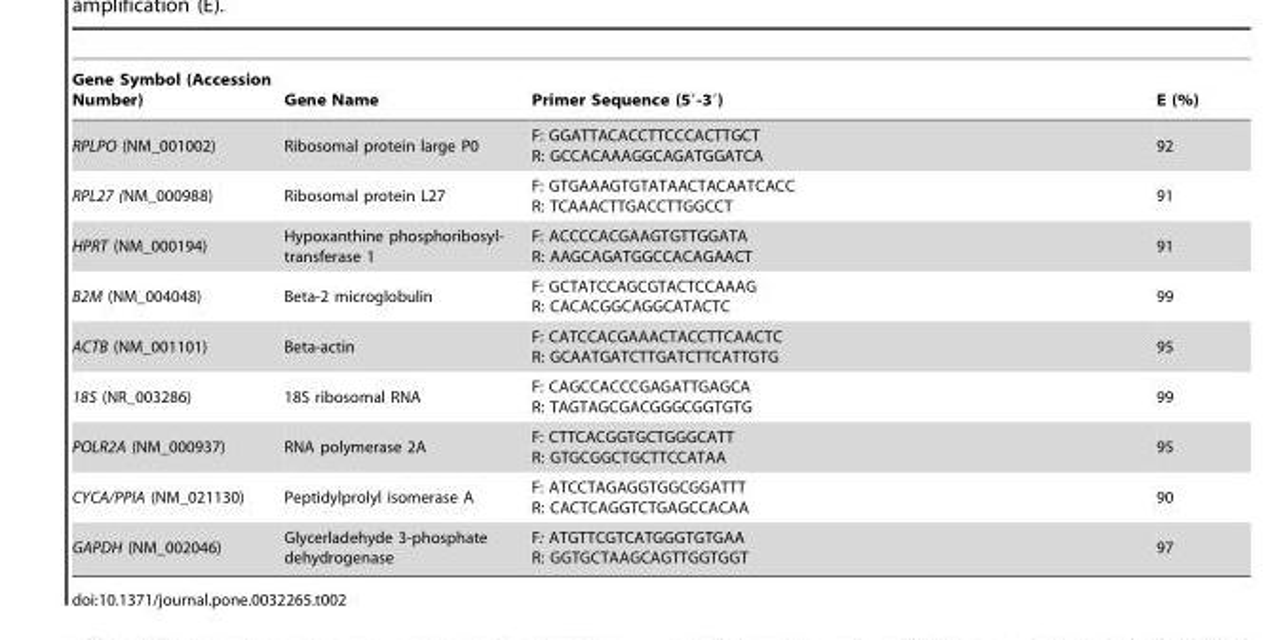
<table><thead><tr><td>Gene Symbol (Accession Number)</td><td>Gene Name</td><td>Primer Sequence (5′-3′)</td><td>E (%)</td></tr></thead><tbody><tr><td>RPLPO (NM_001002)</td><td>Ribosomal protein large P0</td><td>F: GGATTACACCTTCCCACTTGCT R: GCCACAAAGGCAGATGGATCA</td><td>92</td></tr><tr><td>RPL27 (NM_000988)</td><td>Ribosomal protein L27</td><td>F: GTGAAAGTGTATAACTACAATCACC R: TCAAACTTGACCTTGGCCT</td><td>91</td></tr><tr><td>HPRT (NM_000194)</td><td>Hypoxanthine phosphoribosyl- transferase 1</td><td>F: ACCCCACGAAGTGTTGGATA R: AAGCAGATGGCCACAGAACT</td><td>91</td></tr><tr><td>B2M (NM_004048)</td><td>Beta-2 microglobulin</td><td>F: GCTATCCAGCGTACTCCAAAG R: CACACGGCAGGCATACTC</td><td>99</td></tr><tr><td>ACTB (NM_001101)</td><td>Beta-actin</td><td>F: CATCCACGAAACTACCTTCAACTC R: GCAATGATCTTGATCTTCATTGTG</td><td>95</td></tr><tr><td>18S (NR_003286)</td><td>18S ribosomal RNA</td><td>F: CAGCCACCCGAGATTGAGCA R: TAGTAGCGACGGGCGGTGTG</td><td>99</td></tr><tr><td>POLR2A (NM_000937)</td><td>RNA polymerase 2A</td><td>F: CTTCACGGTGCTGGGCATT R: GTGCGGCTGCTTCCATAA</td><td>95</td></tr><tr><td>CYCA/PPIA (NM_021130)</td><td>Peptidylprolyl isomerase A</td><td>F: ATCCTAGAGGTGGCGGATTT R: CACTCAGGTCTGAGCCACAA</td><td>90</td></tr><tr><td>GAPDH (NM_002046)</td><td>Glycerladehyde 3-phosphate dehydrogenase</td><td>F: ATGTTCGTCATGGGTGTGAA R: GGTGCTAAGCAGTTGGTGGT</td><td>97</td></tr></tbody></table>